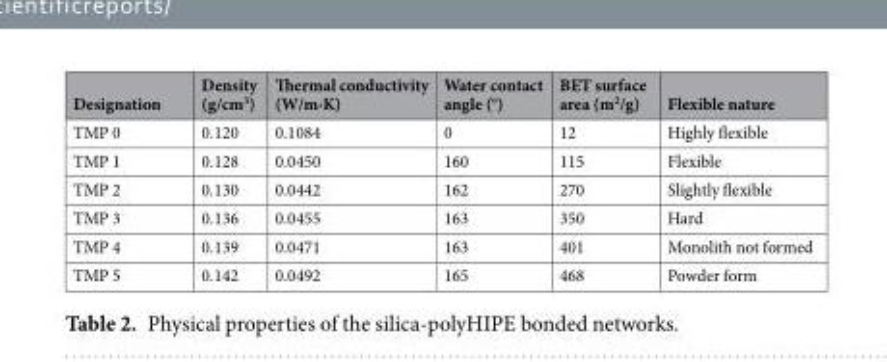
<table><thead><tr><td>Designation</td><td>Density (g/cm<sup>3</sup>)</td><td>Thermal conductivity (W/m·K)</td><td>Water contact angle (°)</td><td>BET surface area (m<sup>2</sup>/g)</td><td>Flexible nature</td></tr></thead><tbody><tr><td>TMP 0</td><td>0.120</td><td>0.1084</td><td>0</td><td>12</td><td>Highly flexible</td></tr><tr><td>TMP 1</td><td>0.128</td><td>0.0450</td><td>160</td><td>115</td><td>Flexible</td></tr><tr><td>TMP 2</td><td>0.130</td><td>0.0442</td><td>162</td><td>270</td><td>Slightly flexible</td></tr><tr><td>TMP 3</td><td>0.136</td><td>0.0455</td><td>163</td><td>350</td><td>Hard</td></tr><tr><td>TMP 4</td><td>0.139</td><td>0.0471</td><td>163</td><td>401</td><td>Monolith not formed</td></tr><tr><td>TMP 5</td><td>0.142</td><td>0.0492</td><td>165</td><td>468</td><td>Powder form</td></tr></tbody></table>